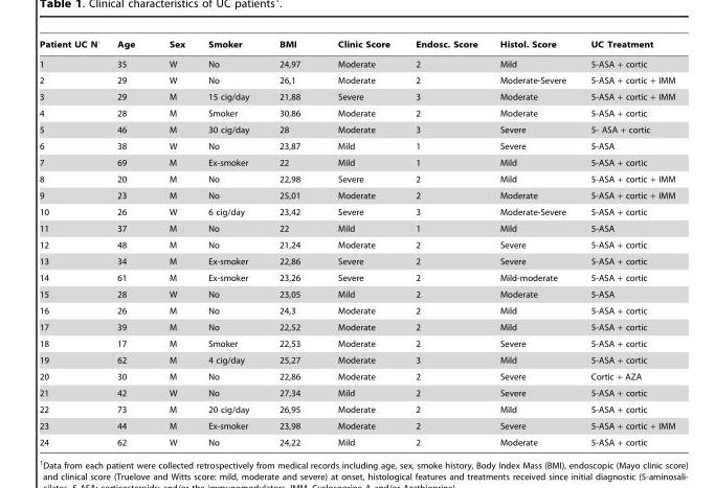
<table><thead><tr><td>Patient UC N°</td><td>Age</td><td>Sex</td><td>Smoker</td><td>BMI</td><td>Clinic Score</td><td>Endosc. Score</td><td>Histol. Score</td><td>UC Treatment</td></tr></thead><tbody><tr><td>1</td><td>35</td><td>W</td><td>No</td><td>24,97</td><td>Moderate</td><td>2</td><td>Mild</td><td>5-ASA + cortic</td></tr><tr><td>2</td><td>29</td><td>W</td><td>No</td><td>26,1</td><td>Moderate</td><td>2</td><td>Moderate-Severe</td><td>5-ASA + cortic + IMM</td></tr><tr><td>3</td><td>29</td><td>M</td><td>15 cig/day</td><td>21,88</td><td>Severe</td><td>3</td><td>Moderate</td><td>5-ASA + cortic + IMM</td></tr><tr><td>4</td><td>28</td><td>M</td><td>Smoker</td><td>30,86</td><td>Moderate</td><td>2</td><td>Moderate</td><td>5-ASA + cortic</td></tr><tr><td>5</td><td>46</td><td>M</td><td>30 cig/day</td><td>28</td><td>Moderate</td><td>3</td><td>Severe</td><td>5- ASA + cortic</td></tr><tr><td>6</td><td>38</td><td>W</td><td>No</td><td>23,87</td><td>Mild</td><td>1</td><td>Severe</td><td>5-ASA</td></tr><tr><td>7</td><td>69</td><td>M</td><td>Ex-smoker</td><td>22</td><td>Mild</td><td>1</td><td>Mild</td><td>5-ASA + cortic</td></tr><tr><td>8</td><td>20</td><td>M</td><td>No</td><td>22,98</td><td>Severe</td><td>2</td><td>Mild</td><td>5-ASA + cortic + IMM</td></tr><tr><td>9</td><td>23</td><td>M</td><td>No</td><td>25,01</td><td>Moderate</td><td>2</td><td>Moderate</td><td>5-ASA + cortic + IMM</td></tr><tr><td>10</td><td>26</td><td>W</td><td>6 cig/day</td><td>23,42</td><td>Severe</td><td>3</td><td>Moderate-Severe</td><td>5-ASA + cortic</td></tr><tr><td>11</td><td>37</td><td>M</td><td>No</td><td>22</td><td>Mild</td><td>1</td><td>Mild</td><td>5-ASA</td></tr><tr><td>12</td><td>48</td><td>M</td><td>No</td><td>21,24</td><td>Moderate</td><td>2</td><td>Severe</td><td>5-ASA + cortic</td></tr><tr><td>13</td><td>34</td><td>M</td><td>Ex-smoker</td><td>22,86</td><td>Severe</td><td>2</td><td>Severe</td><td>5-ASA + cortic</td></tr><tr><td>14</td><td>61</td><td>M</td><td>Ex-smoker</td><td>23,26</td><td>Severe</td><td>2</td><td>Mild-moderate</td><td>5-ASA + cortic</td></tr><tr><td>15</td><td>28</td><td>W</td><td>No</td><td>23,05</td><td>Mild</td><td>2</td><td>Moderate</td><td>5-ASA</td></tr><tr><td>16</td><td>26</td><td>M</td><td>No</td><td>24,3</td><td>Moderate</td><td>2</td><td>Mild</td><td>5-ASA + cortic</td></tr><tr><td>17</td><td>39</td><td>M</td><td>No</td><td>22,52</td><td>Moderate</td><td>2</td><td>Mild</td><td>5-ASA + cortic</td></tr><tr><td>18</td><td>17</td><td>M</td><td>Smoker</td><td>22,53</td><td>Moderate</td><td>2</td><td>Severe</td><td>5-ASA + cortic</td></tr><tr><td>19</td><td>62</td><td>M</td><td>4 cig/day</td><td>25,27</td><td>Moderate</td><td>3</td><td>Mild</td><td>5-ASA + cortic</td></tr><tr><td>20</td><td>30</td><td>M</td><td>No</td><td>22,86</td><td>Moderate</td><td>2</td><td>Severe</td><td>Cortic + AZA</td></tr><tr><td>21</td><td>42</td><td>W</td><td>No</td><td>27,34</td><td>Mild</td><td>2</td><td>Severe</td><td>5-ASA + cortic</td></tr><tr><td>22</td><td>73</td><td>M</td><td>20 cig/day</td><td>26,95</td><td>Moderate</td><td>2</td><td>Mild</td><td>5-ASA + cortic</td></tr><tr><td>23</td><td>44</td><td>M</td><td>Ex-smoker</td><td>23,98</td><td>Moderate</td><td>2</td><td>Severe</td><td>5-ASA + cortic + IMM</td></tr><tr><td>24</td><td>62</td><td>W</td><td>No</td><td>24,22</td><td>Mild</td><td>2</td><td>Moderate</td><td>5-ASA + cortic</td></tr></tbody></table>